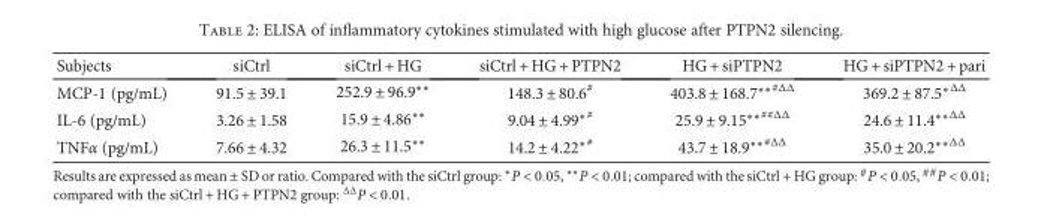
<table><thead><tr><td>Subjects</td><td>siCtrl</td><td>siCtrl + HG</td><td>siCtrl + HG + PTPN2</td><td>HG + siPTPN2</td><td>HG + siPTPN2 + pari</td></tr></thead><tbody><tr><td>MCP-1 (pg/mL)</td><td>91.5 ± 39.1</td><td>252.9 ± 96.9∗∗</td><td>148.3 ± 80.6<sup>#</sup></td><td>403.8 ± 168.7<sup>∗∗#ΔΔ</sup></td><td>369.2 ± 87.5<sup>∗ΔΔ</sup></td></tr><tr><td>IL-6 (pg/mL)</td><td>3.26 ± 1.58</td><td>15.9 ± 4.86∗∗</td><td>9.04 ± 4.99<sup>∗#</sup></td><td>25.9 ± 9.15<sup>∗∗##ΔΔ</sup></td><td>24.6 ± 11.4<sup>∗∗ΔΔ</sup></td></tr><tr><td>TNFα (pg/mL)</td><td>7.66 ± 4.32</td><td>26.3 ± 11.5∗∗</td><td>14.2 ± 4.22<sup>∗#</sup></td><td>43.7 ± 18.9<sup>∗∗#ΔΔ</sup></td><td>35.0 ± 20.2<sup>∗∗ΔΔ</sup></td></tr></tbody></table>